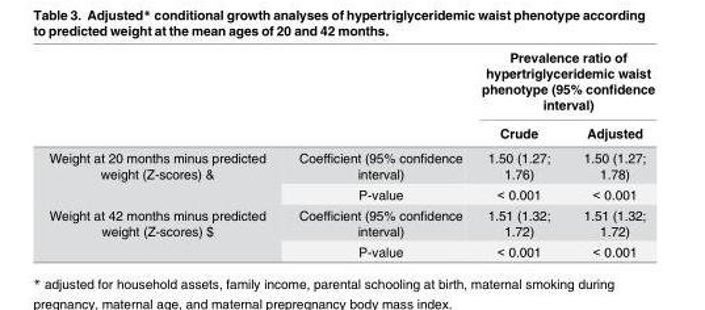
<table><thead><tr><td rowspan="2"></td><td rowspan="2"></td><td colspan="2">Prevalence ratio of hypertriglyceridemic waist phenotype (95% confidence interval)</td></tr><tr><td>Crude</td><td>Adjusted</td></tr></thead><tbody><tr><td rowspan="2">Weight at 20 months minus predicted weight (Z-scores) &amp;</td><td>Coefficient (95% confidence interval)</td><td>1.50 (1.27; 1.76)</td><td>1.50 (1.27; 1.78)</td></tr><tr><td>P-value</td><td>&lt; 0.001</td><td>&lt; 0.001</td></tr><tr><td rowspan="2">Weight at 42 months minus predicted weight (Z-scores) $</td><td>Coefficient (95% confidence interval)</td><td>1.51 (1.32; 1.72)</td><td>1.51 (1.32; 1.72)</td></tr><tr><td>P-value</td><td>&lt; 0.001</td><td>&lt; 0.001</td></tr></tbody></table>